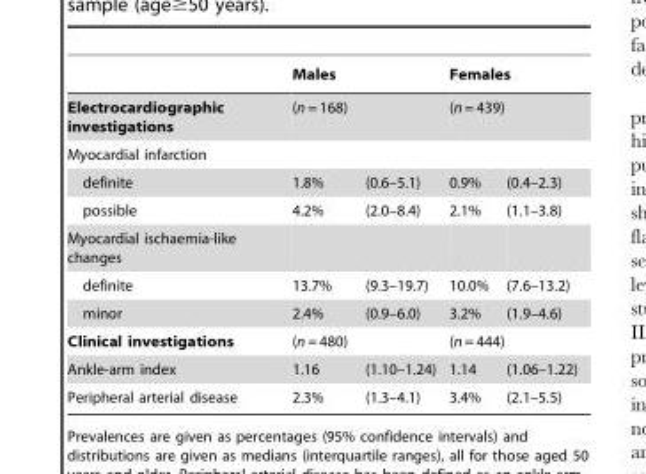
<table><thead><tr><td rowspan="3">Electrocardiographic investigations Myocardial infarction</td><td rowspan="2" colspan="2">Males (n = 168)</td><td rowspan="2" colspan="2">Females (n = 439)</td></tr><tr></tr><tr><td></td><td></td><td></td><td></td></tr></thead><tbody><tr><td>definite</td><td>1.8%</td><td>(0.6–5.1)</td><td>0.9%</td><td>(0.4–2.3)</td></tr><tr><td>possible</td><td>4.2%</td><td>(2.0–8.4)</td><td>2.1%</td><td>(1.1–3.8)</td></tr><tr><td colspan="5">Myocardial ischaemia-like changes</td></tr><tr><td>definite</td><td>13.7%</td><td>(9.3–19.7)</td><td>10.0%</td><td>(7.6–13.2)</td></tr><tr><td>minor</td><td>2.4%</td><td>(0.9–6.0)</td><td>3.2%</td><td>(1.9–4.6)</td></tr><tr><td>Clinical investigations</td><td colspan="2">(n = 480)</td><td colspan="2">(n = 444)</td></tr><tr><td>Ankle-arm index</td><td>1.16</td><td>(1.10–1.24)</td><td>1.14</td><td>(1.06–1.22)</td></tr><tr><td>Peripheral arterial disease</td><td>2.3%</td><td>(1.3–4.1)</td><td>3.4%</td><td>(2.1–5.5)</td></tr></tbody></table>